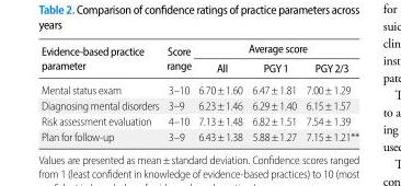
<table><thead><tr><td rowspan="2">Evidence-based practice parameter</td><td rowspan="2">Score range</td><td colspan="3">Average score</td></tr><tr><td>All</td><td>PGY 1</td><td>PGY 2/3</td></tr></thead><tbody><tr><td>Mental status exam</td><td>3–10</td><td>6.70±1.60</td><td>6.47±1.81</td><td>7.00±1.29</td></tr><tr><td>Diagnosing mental disorders</td><td>3–9</td><td>6.23±1.46</td><td>6.29±1.40</td><td>6.15±1.57</td></tr><tr><td>Risk assessment evaluation</td><td>4–10</td><td>7.13±1.48</td><td>6.82±1.51</td><td>7.54±1.39</td></tr><tr><td>Plan for follow-up</td><td>3–9</td><td>6.43±1.38</td><td>5.88±1.27</td><td>7.15±1.21**</td></tr></tbody></table>